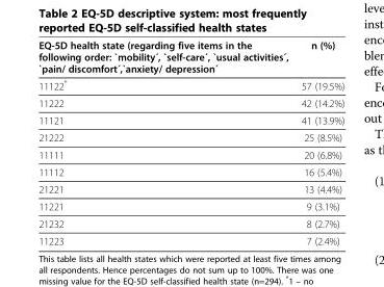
<table><thead><tr><td>EQ-5D health state (regarding five items in the following order: `mobility´, `self-care´, `usual activities´, `pain/ discomfort´,`anxiety/ depression´</td><td>n (%)</td></tr></thead><tbody><tr><td>11122*</td><td>57 (19.5%)</td></tr><tr><td>11222</td><td>42 (14.2%)</td></tr><tr><td>11121</td><td>41 (13.9%)</td></tr><tr><td>21222</td><td>25 (8.5%)</td></tr><tr><td>11111</td><td>20 (6.8%)</td></tr><tr><td>11112</td><td>16 (5.4%)</td></tr><tr><td>21221</td><td>13 (4.4%)</td></tr><tr><td>11221</td><td>9 (3.1%)</td></tr><tr><td>21232</td><td>8 (2.7%)</td></tr><tr><td>11223</td><td>7 (2.4%)</td></tr></tbody></table>